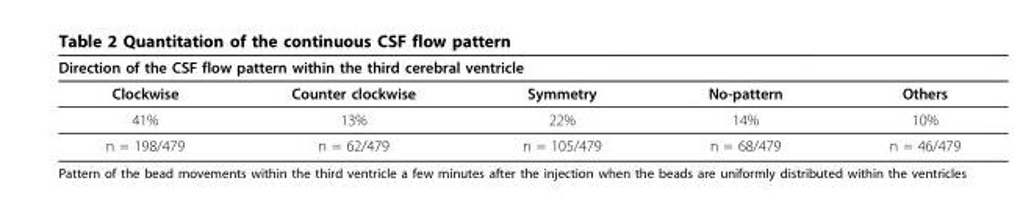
<table><thead><tr><td colspan="5">Direction of the CSF flow pattern within the third cerebral ventricle</td></tr><tr><td>Clockwise</td><td>Counter clockwise</td><td>Symmetry</td><td>No-pattern</td><td>Others</td></tr></thead><tbody><tr><td>41%</td><td>13%</td><td>22%</td><td>14%</td><td>10%</td></tr><tr><td>n = 198/479</td><td>n = 62/479</td><td>n = 105/479</td><td>n = 68/479</td><td>n = 46/479</td></tr></tbody></table>